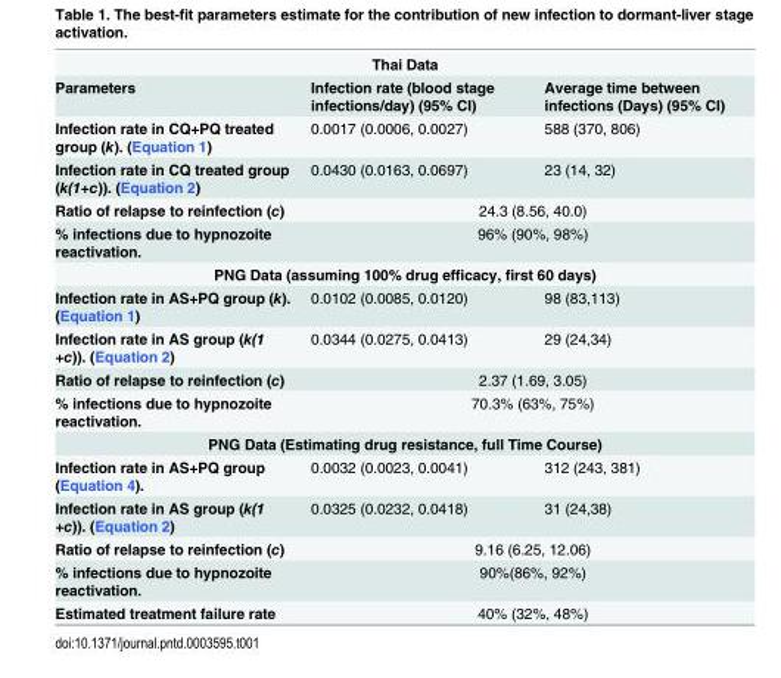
<table><tbody><tr><td colspan="3">Thai Data</td></tr><tr><td>Parameters</td><td>Infection rate (blood stage infections/day) (95% CI)</td><td>Average time between infections (Days) (95% CI)</td></tr><tr><td>Infection rate in CQ+PQ treated group (k). (Equation 1)</td><td>0.0017 (0.0006, 0.0027)</td><td>588 (370, 806)</td></tr><tr><td>Infection rate in CQ treated group (k(1+c)). (Equation 2)</td><td>0.0430 (0.0163, 0.0697)</td><td>23 (14, 32)</td></tr><tr><td>Ratio of relapse to reinfection (c)</td><td colspan="2">24.3 (8.56, 40.0)</td></tr><tr><td>% infections due to hypnozoite reactivation.</td><td colspan="2">96% (90%, 98%)</td></tr><tr><td colspan="3">PNG Data (assuming 100% drug efficacy, first 60 days)</td></tr><tr><td>Infection rate in AS+PQ group (k). (Equation 1)</td><td>0.0102 (0.0085, 0.0120)</td><td>98 (83,113)</td></tr><tr><td>Infection rate in AS group (k(1 +c)). (Equation 2)</td><td>0.0344 (0.0275, 0.0413)</td><td>29 (24,34)</td></tr><tr><td>Ratio of relapse to reinfection (c)</td><td colspan="2">2.37 (1.69, 3.05)</td></tr><tr><td>% infections due to hypnozoite reactivation.</td><td colspan="2">70.3% (63%, 75%)</td></tr><tr><td colspan="3">PNG Data (Estimating drug resistance, full Time Course)</td></tr><tr><td>Infection rate in AS+PQ group (Equation 4).</td><td>0.0032 (0.0023, 0.0041)</td><td>312 (243, 381)</td></tr><tr><td>Infection rate in AS group (k(1 +c)). (Equation 2)</td><td>0.0325 (0.0232, 0.0418)</td><td>31 (24,38)</td></tr><tr><td>Ratio of relapse to reinfection (c)</td><td colspan="2">9.16 (6.25, 12.06)</td></tr><tr><td>% infections due to hypnozoite reactivation.</td><td colspan="2">90%(86%, 92%)</td></tr><tr><td>Estimated treatment failure rate</td><td colspan="2">40% (32%, 48%)</td></tr></tbody></table>